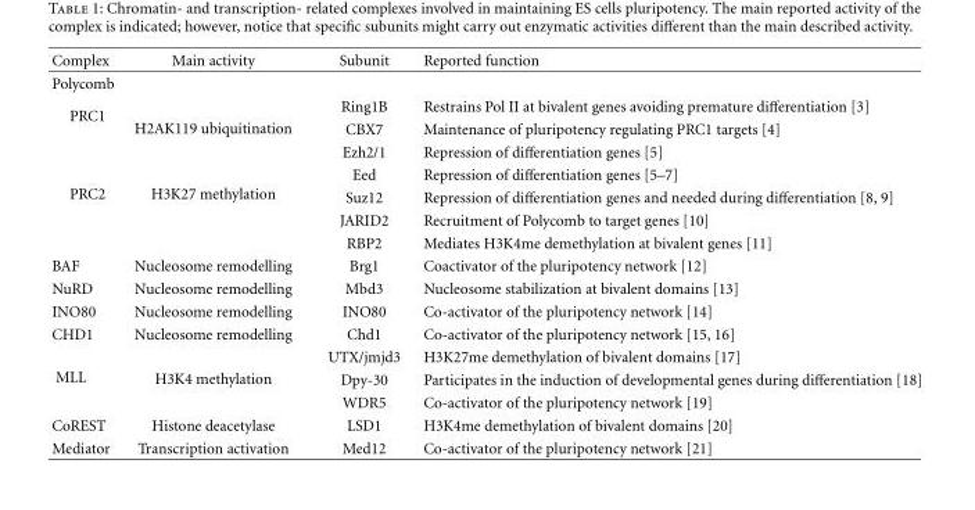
<table><thead><tr><td>Complex</td><td>Main activity</td><td>Subunit</td><td>Reported function</td></tr></thead><tbody><tr><td colspan="4">Polycomb</td></tr><tr><td rowspan="2">PRC1</td><td rowspan="2">H2AK119 ubiquitination</td><td>Ring1B</td><td>Restrains Pol II at bivalent genes avoiding premature differentiation [3]</td></tr><tr><td>CBX7</td><td>Maintenance of pluripotency regulating PRC1 targets [4]</td></tr><tr><td rowspan="5">PRC2</td><td rowspan="5">H3K27 methylation</td><td>Ezh2/1</td><td>Repression of differentiation genes [5]</td></tr><tr><td>Eed</td><td>Repression of differentiation genes [5–7]</td></tr><tr><td>Suz12</td><td>Repression of differentiation genes and needed during differentiation [8, 9]</td></tr><tr><td>JARID2</td><td>Recruitment of Polycomb to target genes [10]</td></tr><tr><td>RBP2</td><td>Mediates H3K4me demethylation at bivalent genes [11]</td></tr><tr><td>BAF</td><td>Nucleosome remodelling</td><td>Brg1</td><td>Coactivator of the pluripotency network [12]</td></tr><tr><td>NuRD</td><td>Nucleosome remodelling</td><td>Mbd3</td><td>Nucleosome stabilization at bivalent domains [13]</td></tr><tr><td>INO80</td><td>Nucleosome remodelling</td><td>INO80</td><td>Co-activator of the pluripotency network [14]</td></tr><tr><td>CHD1</td><td>Nucleosome remodelling</td><td>Chd1</td><td>Co-activator of the pluripotency network [15, 16]</td></tr><tr><td rowspan="3">MLL</td><td rowspan="3">H3K4 methylation</td><td>UTX/jmjd3</td><td>H3K27me demethylation of bivalent domains [17]</td></tr><tr><td>Dpy-30</td><td>Participates in the induction of developmental genes during differentiation [18]</td></tr><tr><td>WDR5</td><td>Co-activator of the pluripotency network [19]</td></tr><tr><td>CoREST</td><td>Histone deacetylase</td><td>LSD1</td><td>H3K4me demethylation of bivalent domains [20]</td></tr><tr><td>Mediator</td><td>Transcription activation</td><td>Med12</td><td>Co-activator of the pluripotency network [21]</td></tr></tbody></table>